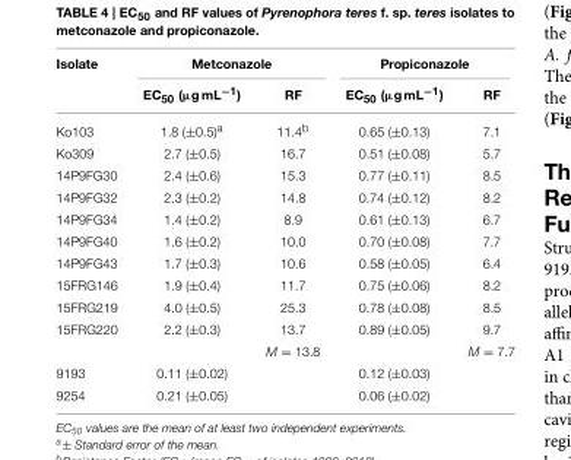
<table><thead><tr><td rowspan="2">Isolate</td><td colspan="2">Metconazole</td><td colspan="2">Propiconazole</td></tr><tr><td>EC<sub>50</sub> (µg mL<sup>−1</sup>)</td><td>RF</td><td>EC<sub>50</sub> (µg mL<sup>−1</sup>)</td><td>RF</td></tr></thead><tbody><tr><td>Ko103</td><td>1.8 (±0.5)<sup>a</sup></td><td>11.4<sup>b</sup></td><td>0.65 (±0.13)</td><td>7.1</td></tr><tr><td>Ko309</td><td>2.7 (±0.5)</td><td>16.7</td><td>0.51 (±0.08)</td><td>5.7</td></tr><tr><td>14P9FG30</td><td>2.4 (±0.6)</td><td>15.3</td><td>0.77 (±0.11)</td><td>8.5</td></tr><tr><td>14P9FG32</td><td>2.3 (±0.2)</td><td>14.8</td><td>0.74 (±0.12)</td><td>8.2</td></tr><tr><td>14P9FG34</td><td>1.4 (±0.2)</td><td>8.9</td><td>0.61 (±0.13)</td><td>6.7</td></tr><tr><td>14P9FG40</td><td>1.6 (±0.2)</td><td>10.0</td><td>0.70 (±0.08)</td><td>7.7</td></tr><tr><td>14P9FG43</td><td>1.7 (±0.3)</td><td>10.6</td><td>0.58 (±0.05)</td><td>6.4</td></tr><tr><td>15FRG146</td><td>1.9 (±0.4)</td><td>11.7</td><td>0.75 (±0.06)</td><td>8.2</td></tr><tr><td>15FRG219</td><td>4.0 (±0.5)</td><td>25.3</td><td>0.78 (±0.08)</td><td>8.5</td></tr><tr><td rowspan="2">15FRG220</td><td>2.2 (±0.3)</td><td>13.7</td><td>0.89 (±0.05)</td><td>9.7</td></tr><tr><td></td><td>M = 13.8</td><td></td><td>M = 7.7</td></tr><tr><td>9193</td><td>0.11 (±0.02)</td><td></td><td>0.12 (±0.03)</td><td></td></tr><tr><td>9254</td><td>0.21 (±0.05)</td><td></td><td>0.06 (±0.02)</td><td></td></tr></tbody></table>